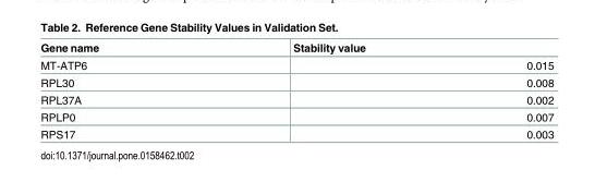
<table><thead><tr><td>Gene name</td><td>Stability value</td></tr></thead><tbody><tr><td>MT-ATP6</td><td>0.015</td></tr><tr><td>RPL30</td><td>0.008</td></tr><tr><td>RPL37A</td><td>0.002</td></tr><tr><td>RPLP0</td><td>0.007</td></tr><tr><td>RPS17</td><td>0.003</td></tr></tbody></table>